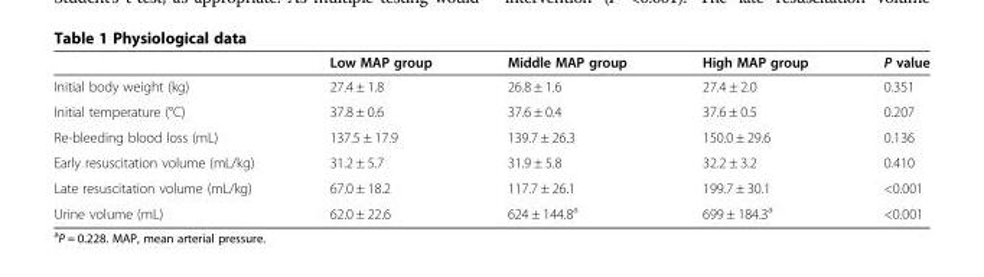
<table><thead><tr><td></td><td>Low MAP group</td><td>Middle MAP group</td><td>High MAP group</td><td>P value</td></tr></thead><tbody><tr><td>Initial body weight (kg)</td><td>27.4 ± 1.8</td><td>26.8 ± 1.6</td><td>27.4 ± 2.0</td><td>0.351</td></tr><tr><td>Initial temperature (°C)</td><td>37.8 ± 0.6</td><td>37.6 ± 0.4</td><td>37.6 ± 0.5</td><td>0.207</td></tr><tr><td>Re-bleeding blood loss (mL)</td><td>137.5 ± 17.9</td><td>139.7 ± 26.3</td><td>150.0 ± 29.6</td><td>0.136</td></tr><tr><td>Early resuscitation volume (mL/kg)</td><td>31.2 ± 5.7</td><td>31.9 ± 5.8</td><td>32.2 ± 3.2</td><td>0.410</td></tr><tr><td>Late resuscitation volume (mL/kg)</td><td>67.0 ± 18.2</td><td>117.7 ± 26.1</td><td>199.7 ± 30.1</td><td>&lt;0.001</td></tr><tr><td>Urine volume (mL)</td><td>62.0 ± 22.6</td><td>624 ± 144.8<sup>a</sup></td><td>699 ± 184.3<sup>a</sup></td><td>&lt;0.001</td></tr></tbody></table>